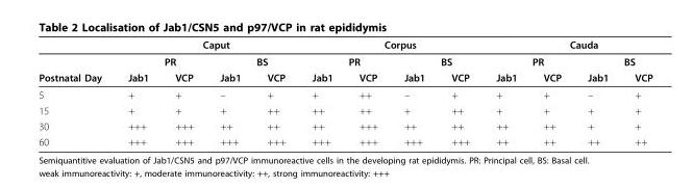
<table><thead><tr><td rowspan="3">Postnatal Day</td><td colspan="4">Caput</td><td colspan="4">Corpus</td><td colspan="4">Cauda</td></tr><tr><td colspan="2">PR</td><td colspan="2">BS</td><td colspan="2">PR</td><td colspan="2">BS</td><td colspan="2">PR</td><td colspan="2">BS</td></tr><tr><td>Jab1</td><td>VCP</td><td>Jab1</td><td>VCP</td><td>Jab1</td><td>VCP</td><td>Jab1</td><td>VCP</td><td>Jab1</td><td>VCP</td><td>Jab1</td><td>VCP</td></tr></thead><tbody><tr><td>5</td><td>+</td><td>+</td><td>–</td><td>+</td><td>+</td><td>++</td><td>–</td><td>+</td><td>+</td><td>+</td><td>–</td><td>+</td></tr><tr><td>15</td><td>+</td><td>+</td><td>+</td><td>++</td><td>++</td><td>++</td><td>+</td><td>++</td><td>+</td><td>+</td><td>+</td><td>+</td></tr><tr><td>30</td><td>+++</td><td>+++</td><td>++</td><td>++</td><td>++</td><td>+++</td><td>++</td><td>++</td><td>++</td><td>++</td><td>+</td><td>+</td></tr><tr><td>60</td><td>+++</td><td>+++</td><td>+++</td><td>+++</td><td>+++</td><td>+++</td><td>+++</td><td>+++</td><td>++</td><td>++</td><td>++</td><td>++</td></tr></tbody></table>